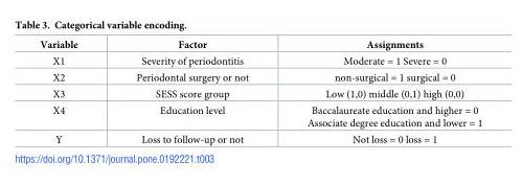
<table><thead><tr><td>Variable</td><td>Factor</td><td>Assignments</td></tr></thead><tbody><tr><td>X1</td><td>Severity of periodontitis</td><td>Moderate = 1 Severe = 0</td></tr><tr><td>X2</td><td>Periodontal surgery or not</td><td>non-surgical = 1 surgical = 0</td></tr><tr><td>X3</td><td>SESS score group</td><td>Low (1,0) middle (0,1) high (0,0)</td></tr><tr><td>X4</td><td>Education level</td><td>Baccalaureate education and higher = 0 Associate degree education and lower = 1</td></tr><tr><td>Y</td><td>Loss to follow-up or not</td><td>Not loss = 0 loss = 1</td></tr></tbody></table>